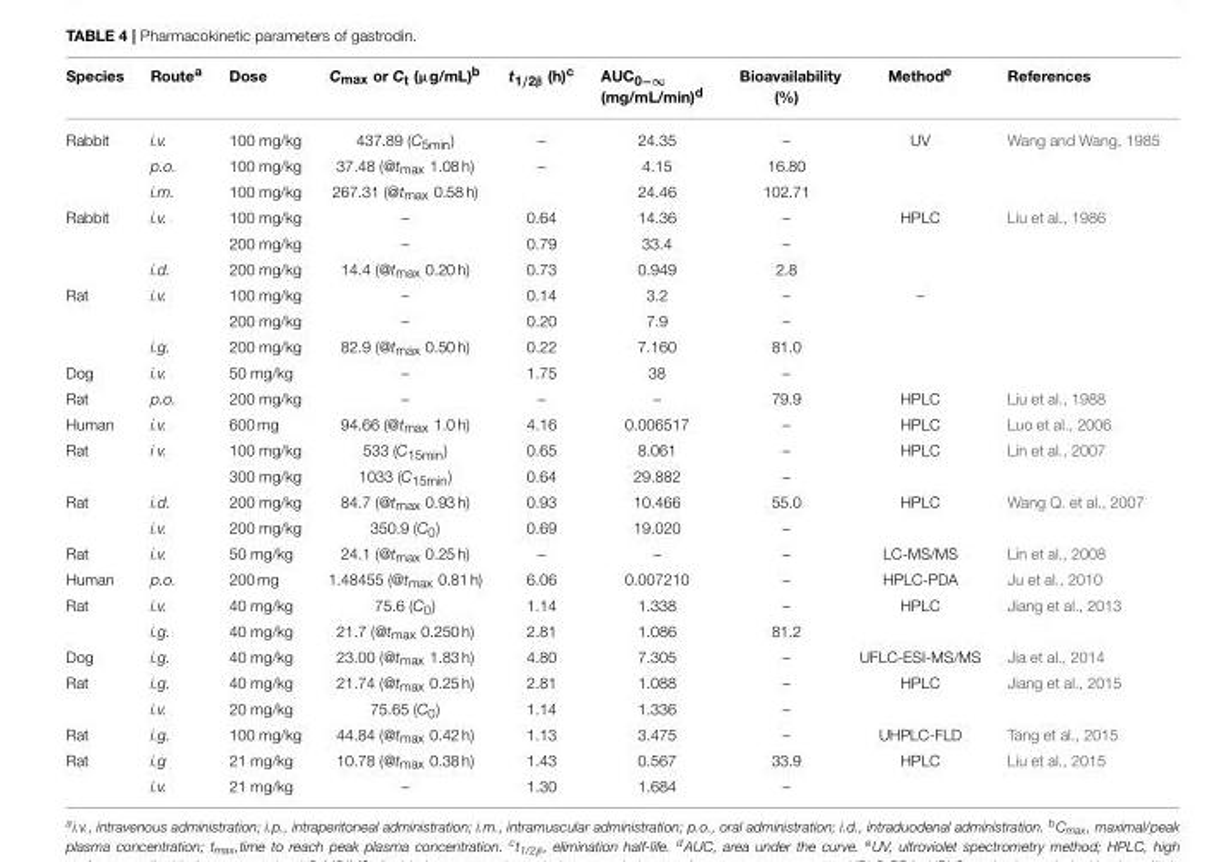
<table><thead><tr><td>Species</td><td>Route<sup>a</sup></td><td>Dose</td><td>C<sub>max</sub> or C<sub>t</sub> (µg/mL)<sup>b</sup></td><td>t<sub>1/2β</sub> (h)<sup>c</sup></td><td>AUC<sub>0−∞</sub> (mg/mL/min)<sup>d</sup></td><td>Bioavailability (%)</td><td>Method<sup>e</sup></td><td>References</td></tr></thead><tbody><tr><td rowspan="3">Rabbit</td><td>i.v.</td><td>100 mg/kg</td><td>437.89 (C<sub>5min</sub>)</td><td>–</td><td>24.35</td><td>–</td><td>UV</td><td>Wang and Wang, 1985</td></tr><tr><td>p.o.</td><td>100 mg/kg</td><td>37.48 (@t<sub>max</sub> 1.08 h)</td><td>–</td><td>4.15</td><td>16.80</td><td></td><td></td></tr><tr><td>i.m.</td><td>100 mg/kg</td><td>267.31 (@t<sub>max</sub> 0.58 h)</td><td></td><td>24.46</td><td>102.71</td><td></td><td></td></tr><tr><td rowspan="3">Rabbit</td><td>i.v.</td><td>100 mg/kg</td><td>–</td><td>0.64</td><td>14.36</td><td>–</td><td>HPLC</td><td>Liu et al., 1986</td></tr><tr><td></td><td>200 mg/kg</td><td>–</td><td>0.79</td><td>33.4</td><td>–</td><td></td><td></td></tr><tr><td>i.d.</td><td>200 mg/kg</td><td>14.4 (@t<sub>max</sub> 0.20 h)</td><td>0.73</td><td>0.949</td><td>2.8</td><td></td><td></td></tr><tr><td rowspan="3">Rat</td><td>i.v.</td><td>100 mg/kg</td><td>–</td><td>0.14</td><td>3.2</td><td>–</td><td>–</td><td></td></tr><tr><td></td><td>200 mg/kg</td><td>–</td><td>0.20</td><td>7.9</td><td>–</td><td></td><td></td></tr><tr><td>i.g.</td><td>200 mg/kg</td><td>82.9 (@t<sub>max</sub> 0.50 h)</td><td>0.22</td><td>7.160</td><td>81.0</td><td></td><td></td></tr><tr><td>Dog</td><td>i.v.</td><td>50 mg/kg</td><td>–</td><td>1.75</td><td>38</td><td>–</td><td></td><td></td></tr><tr><td>Rat</td><td>p.o.</td><td>200 mg/kg</td><td>–</td><td>–</td><td>–</td><td>79.9</td><td>HPLC</td><td>Liu et al., 1988</td></tr><tr><td>Human</td><td>i.v.</td><td>600 mg</td><td>94.66 (@t<sub>max</sub> 1.0 h)</td><td>4.16</td><td>0.006517</td><td>–</td><td>HPLC</td><td>Luo et al., 2006</td></tr><tr><td rowspan="2">Rat</td><td>i v.</td><td>100 mg/kg</td><td>533 (C<sub>15min</sub>)</td><td>0.65</td><td>8.061</td><td>–</td><td>HPLC</td><td>Lin et al., 2007</td></tr><tr><td></td><td>300 mg/kg</td><td>1033 (C<sub>15min</sub>)</td><td>0.64</td><td>29.882</td><td>–</td><td></td><td></td></tr><tr><td rowspan="2">Rat</td><td>i.d.</td><td>200 mg/kg</td><td>84.7 (@t<sub>max</sub> 0.93 h)</td><td>0.93</td><td>10.466</td><td>55.0</td><td>HPLC</td><td>Wang Q. et al., 2007</td></tr><tr><td>i.v.</td><td>200 mg/kg</td><td>350.9 (C<sub>0</sub>)</td><td>0.69</td><td>19.020</td><td>–</td><td></td><td></td></tr><tr><td>Rat</td><td>i.v.</td><td>50 mg/kg</td><td>24.1 (@t<sub>max</sub> 0.25 h)</td><td>–</td><td>–</td><td>–</td><td>LC-MS/MS</td><td>Lin et al., 2008</td></tr><tr><td>Human</td><td>p.o.</td><td>200 mg</td><td>1.48455 (@t<sub>max</sub> 0.81 h)</td><td>6.06</td><td>0.007210</td><td>–</td><td>HPLC-PDA</td><td>Ju et al., 2010</td></tr><tr><td rowspan="2">Rat</td><td>i.v.</td><td>40 mg/kg</td><td>75.6 (C<sub>0</sub>)</td><td>1.14</td><td>1.338</td><td>–</td><td>HPLC</td><td>Jiang et al., 2013</td></tr><tr><td>i.g.</td><td>40 mg/kg</td><td>21.7 (@t<sub>max</sub> 0.250 h)</td><td>2.81</td><td>1.086</td><td>81.2</td><td></td><td></td></tr><tr><td>Dog</td><td>i.g.</td><td>40 mg/kg</td><td>23.00 (@t<sub>max</sub> 1.83 h)</td><td>4.80</td><td>7.305</td><td>–</td><td>UFLC-ESI-MS/MS</td><td>Jia et al., 2014</td></tr><tr><td rowspan="2">Rat</td><td>i.g.</td><td>40 mg/kg</td><td>21.74 (@t<sub>max</sub> 0.25 h)</td><td>2.81</td><td>1.088</td><td>–</td><td>HPLC</td><td>Jiang et al., 2015</td></tr><tr><td>i.v.</td><td>20 mg/kg</td><td>75.65 (C<sub>0</sub>)</td><td>1.14</td><td>1.336</td><td>–</td><td></td><td></td></tr><tr><td>Rat</td><td>i.g.</td><td>100 mg/kg</td><td>44.84 (@t<sub>max</sub> 0.42 h)</td><td>1.13</td><td>3.475</td><td>–</td><td>UHPLC-FLD</td><td>Tang et al., 2015</td></tr><tr><td rowspan="2">Rat</td><td>i.g</td><td>21 mg/kg</td><td>10.78 (@t<sub>max</sub> 0.38 h)</td><td>1.43</td><td>0.567</td><td>33.9</td><td>HPLC</td><td>Liu et al., 2015</td></tr><tr><td>i.v.</td><td>21 mg/kg</td><td>–</td><td>1.30</td><td>1.684</td><td>–</td><td></td><td></td></tr></tbody></table>